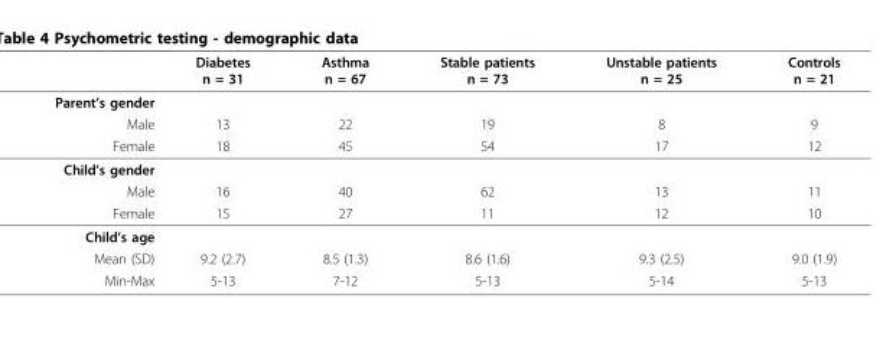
<table><thead><tr><td></td><td>Diabetes n = 31</td><td>Asthma n = 67</td><td>Stable patients n = 73</td><td>Unstable patients n = 25</td><td>Controls n = 21</td></tr></thead><tbody><tr><td colspan="6">Parent’s gender</td></tr><tr><td>Male</td><td>13</td><td>22</td><td>19</td><td>8</td><td>9</td></tr><tr><td>Female</td><td>18</td><td>45</td><td>54</td><td>17</td><td>12</td></tr><tr><td colspan="6">Child’s gender</td></tr><tr><td>Male</td><td>16</td><td>40</td><td>62</td><td>13</td><td>11</td></tr><tr><td>Female</td><td>15</td><td>27</td><td>11</td><td>12</td><td>10</td></tr><tr><td colspan="6">Child’s age</td></tr><tr><td>Mean (SD)</td><td>9.2 (2.7)</td><td>8.5 (1.3)</td><td>8.6 (1.6)</td><td>9.3 (2.5)</td><td>9.0 (1.9)</td></tr><tr><td>Min-Max</td><td>5-13</td><td>7-12</td><td>5-13</td><td>5-14</td><td>5-13</td></tr></tbody></table>